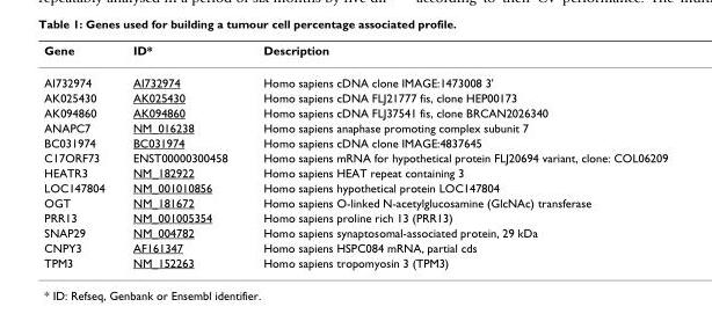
<table><thead><tr><td>Gene</td><td>ID*</td><td>Description</td></tr></thead><tbody><tr><td>AI732974</td><td>AI732974</td><td>Homo sapiens cDNA clone IMAGE:1473008 3&#x27;</td></tr><tr><td>AK025430</td><td>AK025430</td><td>Homo sapiens cDNA FLJ21777 fis, clone HEP00173</td></tr><tr><td>AK094860</td><td>AK094860</td><td>Homo sapiens cDNA FLJ37541 fis, clone BRCAN2026340</td></tr><tr><td>ANAPC7</td><td>NM_016238</td><td>Homo sapiens anaphase promoting complex subunit 7</td></tr><tr><td>BC031974</td><td>BC031974</td><td>Homo sapiens cDNA clone IMAGE:4837645</td></tr><tr><td>C17ORF73</td><td>ENST00000300458</td><td>Homo sapiens mRNA for hypothetical protein FLJ20694 variant, clone: COL06209</td></tr><tr><td>HEATR3</td><td>NM_182922</td><td>Homo sapiens HEAT repeat containing 3</td></tr><tr><td>LOC147804</td><td>NM_001010856</td><td>Homo sapiens hypothetical protein LOC147804</td></tr><tr><td>OGT</td><td>NM_181672</td><td>Homo sapiens O-linked N-acetylglucosamine (GlcNAc) transferase</td></tr><tr><td>PRR13</td><td>NM_001005354</td><td>Homo sapiens proline rich 13 (PRR13)</td></tr><tr><td>SNAP29</td><td>NM_004782</td><td>Homo sapiens synaptosomal-associated protein, 29 kDa</td></tr><tr><td>CNPY3</td><td>AF161347</td><td>Homo sapiens HSPC084 mRNA, partial cds</td></tr><tr><td>TPM3</td><td>NM_152263</td><td>Homo sapiens tropomyosin 3 (TPM3)</td></tr></tbody></table>